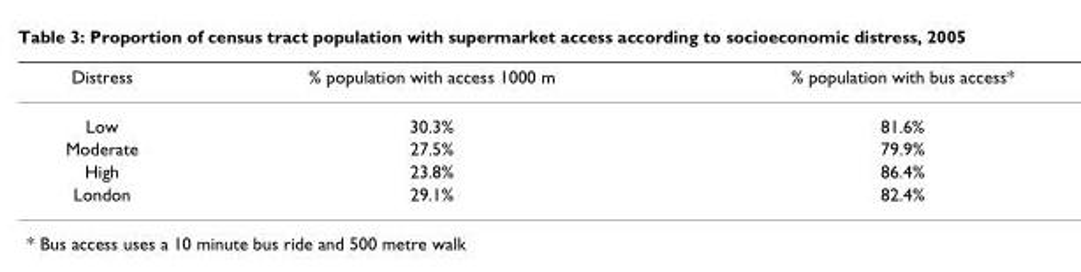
<table><thead><tr><td>Distress</td><td>% population with access 1000 m</td><td>% population with bus access*</td></tr></thead><tbody><tr><td>Low</td><td>30.3%</td><td>81.6%</td></tr><tr><td>Moderate</td><td>27.5%</td><td>79.9%</td></tr><tr><td>High</td><td>23.8%</td><td>86.4%</td></tr><tr><td>London</td><td>29.1%</td><td>82.4%</td></tr></tbody></table>